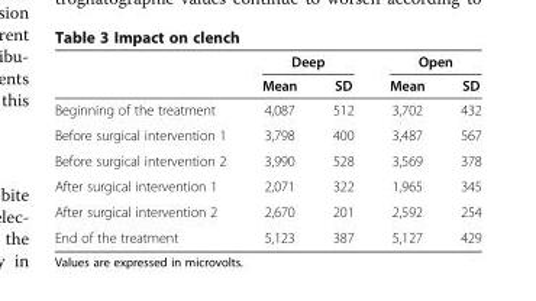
<table><thead><tr><td rowspan="2"></td><td colspan="2">Deep</td><td colspan="2">Open</td></tr><tr><td>Mean</td><td>SD</td><td>Mean</td><td>SD</td></tr></thead><tbody><tr><td>Beginning of the treatment</td><td>4,087</td><td>512</td><td>3,702</td><td>432</td></tr><tr><td>Before surgical intervention 1</td><td>3,798</td><td>400</td><td>3,487</td><td>567</td></tr><tr><td>Before surgical intervention 2</td><td>3,990</td><td>528</td><td>3,569</td><td>378</td></tr><tr><td>After surgical intervention 1</td><td>2,071</td><td>322</td><td>1,965</td><td>345</td></tr><tr><td>After surgical intervention 2</td><td>2,670</td><td>201</td><td>2,592</td><td>254</td></tr><tr><td>End of the treatment</td><td>5,123</td><td>387</td><td>5,127</td><td>429</td></tr></tbody></table>